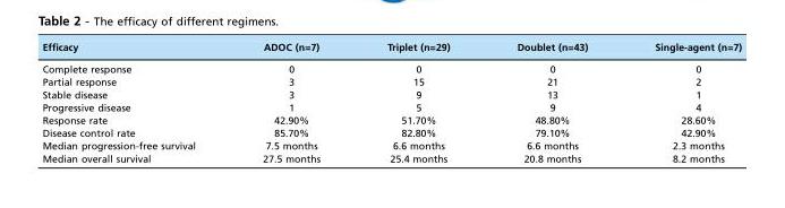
<table><thead><tr><td>Efficacy</td><td>ADOC (n=7)</td><td>Triplet (n=29)</td><td>Doublet (n=43)</td><td>Single-agent (n=7)</td></tr></thead><tbody><tr><td>Complete response</td><td>0</td><td>0</td><td>0</td><td>0</td></tr><tr><td>Partial response</td><td>3</td><td>15</td><td>21</td><td>2</td></tr><tr><td>Stable disease</td><td>3</td><td>9</td><td>13</td><td>1</td></tr><tr><td>Progressive disease</td><td>1</td><td>5</td><td>9</td><td>4</td></tr><tr><td>Response rate</td><td>42.90%</td><td>51.70%</td><td>48.80%</td><td>28.60%</td></tr><tr><td>Disease control rate</td><td>85.70%</td><td>82.80%</td><td>79.10%</td><td>42.90%</td></tr><tr><td>Median progression-free survival</td><td>7.5 months</td><td>6.6 months</td><td>6.6 months</td><td>2.3 months</td></tr><tr><td>Median overall survival</td><td>27.5 months</td><td>25.4 months</td><td>20.8 months</td><td>8.2 months</td></tr></tbody></table>